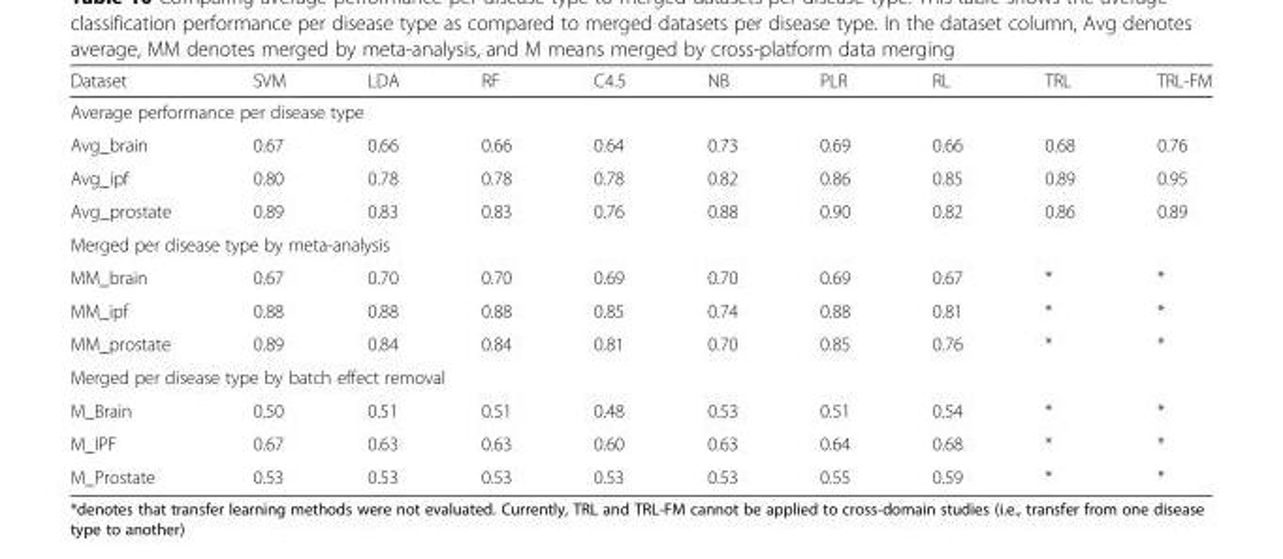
<table><thead><tr><td>Dataset</td><td>SVM</td><td>LDA</td><td>RF</td><td>C4.5</td><td>NB</td><td>PLR</td><td>RL</td><td>TRL</td><td>TRL-FM</td></tr></thead><tbody><tr><td colspan="10">Average performance per disease type</td></tr><tr><td>Avg_brain</td><td>0.67</td><td>0.66</td><td>0.66</td><td>0.64</td><td>0.73</td><td>0.69</td><td>0.66</td><td>0.68</td><td>0.76</td></tr><tr><td>Avg_ipf</td><td>0.80</td><td>0.78</td><td>0.78</td><td>0.78</td><td>0.82</td><td>0.86</td><td>0.85</td><td>0.89</td><td>0.95</td></tr><tr><td>Avg_prostate</td><td>0.89</td><td>0.83</td><td>0.83</td><td>0.76</td><td>0.88</td><td>0.90</td><td>0.82</td><td>0.86</td><td>0.89</td></tr><tr><td colspan="10">Merged per disease type by meta-analysis</td></tr><tr><td>MM_brain</td><td>0.67</td><td>0.70</td><td>0.70</td><td>0.69</td><td>0.70</td><td>0.69</td><td>0.67</td><td>*</td><td>*</td></tr><tr><td>MM_ipf</td><td>0.88</td><td>0.88</td><td>0.88</td><td>0.85</td><td>0.74</td><td>0.88</td><td>0.81</td><td>*</td><td>*</td></tr><tr><td>MM_prostate</td><td>0.89</td><td>0.84</td><td>0.84</td><td>0.81</td><td>0.70</td><td>0.85</td><td>0.76</td><td>*</td><td>*</td></tr><tr><td colspan="10">Merged per disease type by batch effect removal</td></tr><tr><td>M_Brain</td><td>0.50</td><td>0.51</td><td>0.51</td><td>0.48</td><td>0.53</td><td>0.51</td><td>0.54</td><td>*</td><td>*</td></tr><tr><td>M_IPF</td><td>0.67</td><td>0.63</td><td>0.63</td><td>0.60</td><td>0.63</td><td>0.64</td><td>0.68</td><td>*</td><td>*</td></tr><tr><td>M_Prostate</td><td>0.53</td><td>0.53</td><td>0.53</td><td>0.53</td><td>0.53</td><td>0.55</td><td>0.59</td><td>*</td><td>*</td></tr></tbody></table>